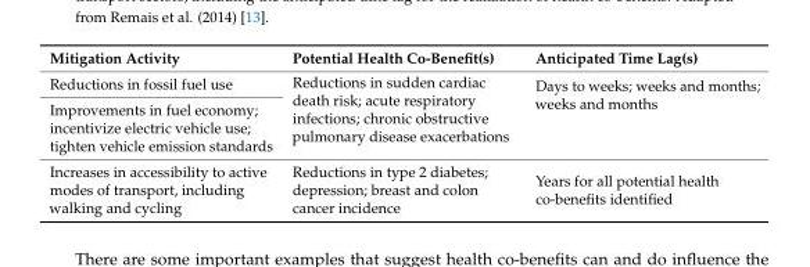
<table><thead><tr><td>Mitigation Activity</td><td>Potential Health Co-Benefit(s)</td><td>Anticipated Time Lag(s)</td></tr></thead><tbody><tr><td>Reductions in fossil fuel use</td><td rowspan="2">Reductions in sudden cardiac death risk; acute respiratory infections; chronic obstructive pulmonary disease exacerbations</td><td rowspan="2">Days to weeks; weeks and months; weeks and months</td></tr><tr><td>Improvements in fuel economy; incentivize electric vehicle use; tighten vehicle emission standards</td></tr><tr><td>Increases in accessibility to active modes of transport, including walking and cycling</td><td>Reductions in type 2 diabetes; depression; breast and colon cancer incidence</td><td>Years for all potential health co-benefits identified</td></tr></tbody></table>